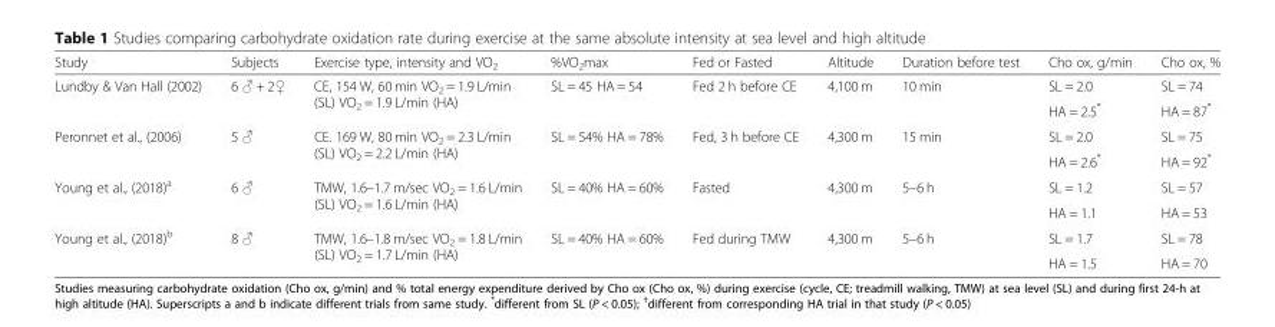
<table><thead><tr><td>Study</td><td>Subjects</td><td>Exercise type, intensity and VO<sub>2</sub></td><td>%VO<sub>2</sub>max</td><td>Fed or Fasted</td><td>Altitude</td><td>Duration before test</td><td>Cho ox, g/min</td><td>Cho ox, %</td></tr></thead><tbody><tr><td rowspan="2">Lundby &amp; Van Hall (2002)</td><td rowspan="2">6 ♂ + 2♀</td><td rowspan="2">CE, 154 W, 60 min VO<sub>2</sub> = 1.9 L/min (SL) VO<sub>2</sub> = 1.9 L/min (HA)</td><td rowspan="2">SL = 45 HA = 54</td><td rowspan="2">Fed 2 h before CE</td><td rowspan="2">4,100 m</td><td rowspan="2">10 min</td><td>SL = 2.0</td><td>SL = 74</td></tr><tr><td>HA = 2.5*</td><td>HA = 87*</td></tr><tr><td rowspan="2">Peronnet et al., (2006)</td><td rowspan="2">5 ♂</td><td rowspan="2">CE. 169 W, 80 min VO<sub>2</sub> = 2.3 L/min (SL) VO<sub>2</sub> = 2.2 L/min (HA)</td><td rowspan="2">SL = 54% HA = 78%</td><td rowspan="2">Fed, 3 h before CE</td><td rowspan="2">4,300 m</td><td rowspan="2">15 min</td><td>SL = 2.0</td><td>SL = 75</td></tr><tr><td>HA = 2.6*</td><td>HA = 92*</td></tr><tr><td rowspan="2">Young et al., (2018)<sup>a</sup></td><td rowspan="2">6 ♂</td><td rowspan="2">TMW, 1.6–1.7 m/sec VO<sub>2</sub> = 1.6 L/min (SL) VO<sub>2</sub> = 1.6 L/min (HA)</td><td rowspan="2">SL = 40% HA = 60%</td><td rowspan="2">Fasted</td><td rowspan="2">4,300 m</td><td rowspan="2">5–6 h</td><td>SL = 1.2</td><td>SL = 57</td></tr><tr><td>HA = 1.1</td><td>HA = 53</td></tr><tr><td rowspan="2">Young et al., (2018)<sup>b</sup></td><td rowspan="2">8 ♂</td><td rowspan="2">TMW, 1.6–1.8 m/sec VO<sub>2</sub> = 1.8 L/min (SL) VO<sub>2</sub> = 1.7 L/min (HA)</td><td rowspan="2">SL = 40% HA = 60%</td><td rowspan="2">Fed during TMW</td><td rowspan="2">4,300 m</td><td rowspan="2">5–6 h</td><td>SL = 1.7</td><td>SL = 78</td></tr><tr><td>HA = 1.5</td><td>HA = 70</td></tr></tbody></table>